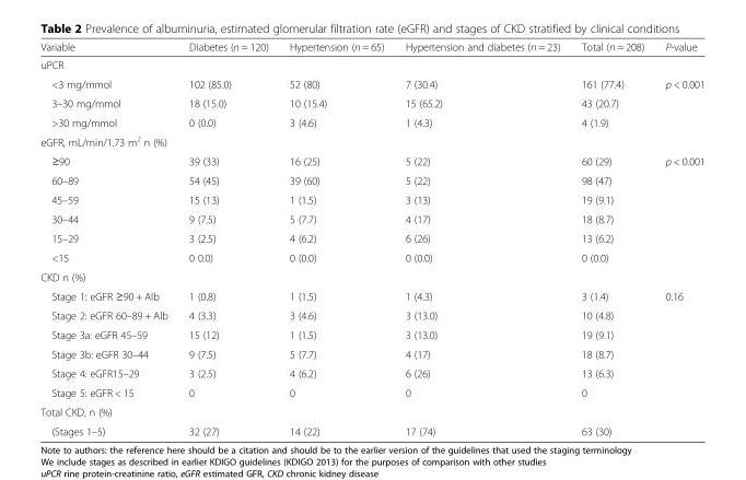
<table><thead><tr><td>Variable</td><td>Diabetes (n = 120)</td><td>Hypertension (n = 65)</td><td>Hypertension and diabetes (n = 23)</td><td>Total (n = 208)</td><td>P-value</td></tr></thead><tbody><tr><td colspan="6">uPCR</td></tr><tr><td>&lt;3 mg/mmol</td><td>102 (85.0)</td><td>52 (80)</td><td>7 (30.4)</td><td>161 (77.4)</td><td>p &lt; 0.001</td></tr><tr><td>3–30 mg/mmol</td><td>18 (15.0)</td><td>10 (15.4)</td><td>15 (65.2)</td><td>43 (20.7)</td><td></td></tr><tr><td>&gt;30 mg/mmol</td><td>0 (0.0)</td><td>3 (4.6)</td><td>1 (4.3)</td><td>4 (1.9)</td><td></td></tr><tr><td colspan="6">eGFR, mL/min/1.73 m<sup>2</sup> n (%)</td></tr><tr><td>≥90</td><td>39 (33)</td><td>16 (25)</td><td>5 (22)</td><td>60 (29)</td><td>p &lt; 0.001</td></tr><tr><td>60–89</td><td>54 (45)</td><td>39 (60)</td><td>5 (22)</td><td>98 (47)</td><td></td></tr><tr><td>45–59</td><td>15 (13)</td><td>1 (1.5)</td><td>3 (13)</td><td>19 (9.1)</td><td></td></tr><tr><td>30–44</td><td>9 (7.5)</td><td>5 (7.7)</td><td>4 (17)</td><td>18 (8.7)</td><td></td></tr><tr><td>15–29</td><td>3 (2.5)</td><td>4 (6.2)</td><td>6 (26)</td><td>13 (6.2)</td><td></td></tr><tr><td>&lt;15</td><td>0 0.0)</td><td>0 (0.0)</td><td>0 (0.0)</td><td>0 (0.0)</td><td></td></tr><tr><td colspan="6">CKD n (%)</td></tr><tr><td>Stage 1: eGFR ≥90 + Alb</td><td>1 (0.8)</td><td>1 (1.5)</td><td>1 (4.3)</td><td>3 (1.4)</td><td>0.16</td></tr><tr><td>Stage 2: eGFR 60–89 + Alb</td><td>4 (3.3)</td><td>3 (4.6)</td><td>3 (13.0)</td><td>10 (4.8)</td><td></td></tr><tr><td>Stage 3a: eGFR 45–59</td><td>15 (12)</td><td>1 (1.5)</td><td>3 (13.0)</td><td>19 (9.1)</td><td></td></tr><tr><td>Stage 3b: eGFR 30–44</td><td>9 (7.5)</td><td>5 (7.7)</td><td>4 (17)</td><td>18 (8.7)</td><td></td></tr><tr><td>Stage 4: eGFR15–29</td><td>3 (2.5)</td><td>4 (6.2)</td><td>6 (26)</td><td>13 (6.3)</td><td></td></tr><tr><td>Stage 5: eGFR &lt; 15</td><td>0</td><td>0</td><td>0</td><td>0</td><td></td></tr><tr><td colspan="6">Total CKD, n (%)</td></tr><tr><td>(Stages 1–5)</td><td>32 (27)</td><td>14 (22)</td><td>17 (74)</td><td>63 (30)</td><td></td></tr></tbody></table>